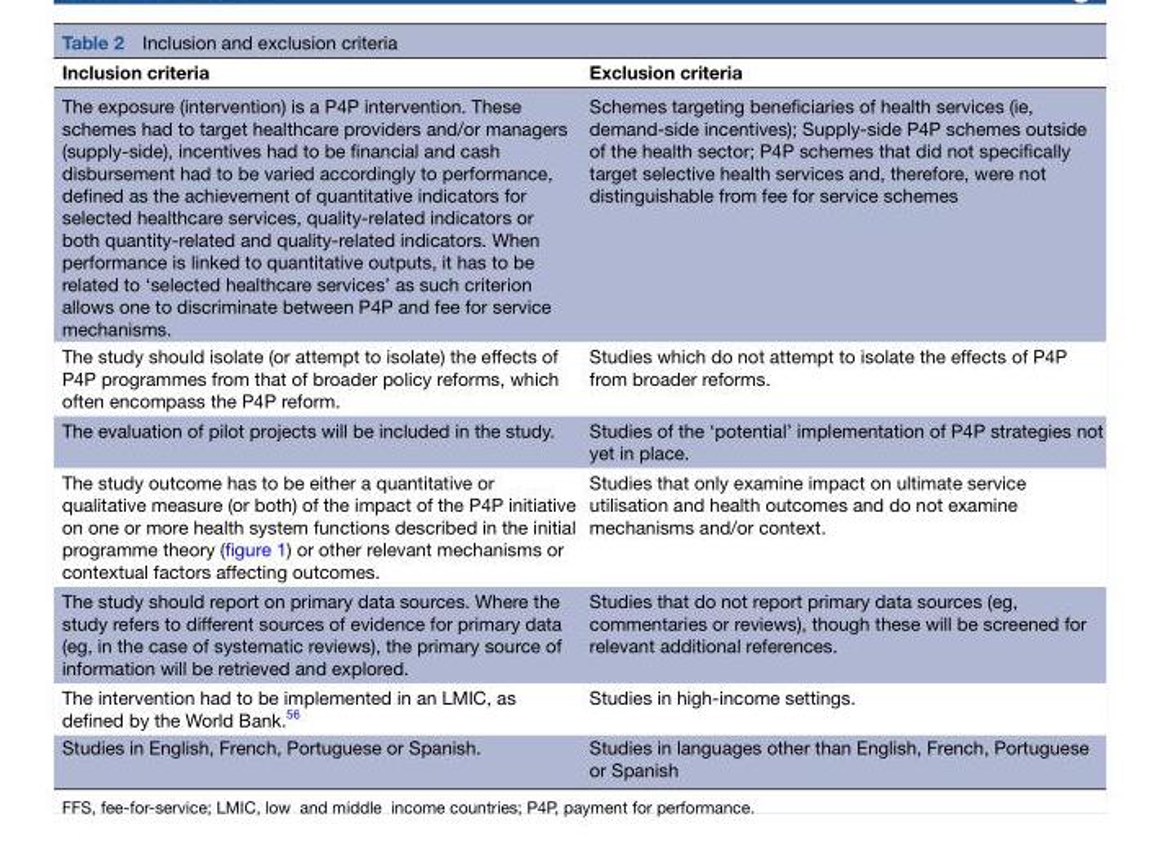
<table><thead><tr><td>Inclusion criteria</td><td>Exclusion criteria</td></tr></thead><tbody><tr><td>The exposure (intervention) is a P4P intervention. These schemes had to target healthcare providers and/or managers (supply-side), incentives had to be financial and cash disbursement had to be varied accordingly to performance, defined as the achievement of quantitative indicators for selected healthcare services, quality-related indicators or both quantity-related and quality-related indicators. When performance is linked to quantitative outputs, it has to be related to ‘selected healthcare services’ as such criterion allows one to discriminate between P4P and fee for service mechanisms.</td><td>Schemes targeting beneficiaries of health services (ie, demand-side incentives); Supply-side P4P schemes outside of the health sector; P4P schemes that did not specifically target selective health services and, therefore, were not distinguishable from fee for service schemes</td></tr><tr><td>The study should isolate (or attempt to isolate) the effects of P4P programmes from that of broader policy reforms, which often encompass the P4P reform.</td><td>Studies which do not attempt to isolate the effects of P4P from broader reforms.</td></tr><tr><td>The evaluation of pilot projects will be included in the study.</td><td>Studies of the ‘potential’ implementation of P4P strategies not yet in place.</td></tr><tr><td>The study outcome has to be either a quantitative or qualitative measure (or both) of the impact of the P4P initiative on one or more health system functions described in the initial programme theory (figure 1) or other relevant mechanisms or contextual factors affecting outcomes.</td><td>Studies that only examine impact on ultimate service utilisation and health outcomes and do not examine mechanisms and/or context.</td></tr><tr><td>The study should report on primary data sources. Where the study refers to different sources of evidence for primary data (eg, in the case of systematic reviews), the primary source of information will be retrieved and explored.</td><td>Studies that do not report primary data sources (eg, commentaries or reviews), though these will be screened for relevant additional references.</td></tr><tr><td>The intervention had to be implemented in an LMIC, as defined by the World Bank.<sup>56</sup></td><td>Studies in high-income settings.</td></tr><tr><td>Studies in English, French, Portuguese or Spanish.</td><td>Studies in languages other than English, French, Portuguese or Spanish</td></tr></tbody></table>